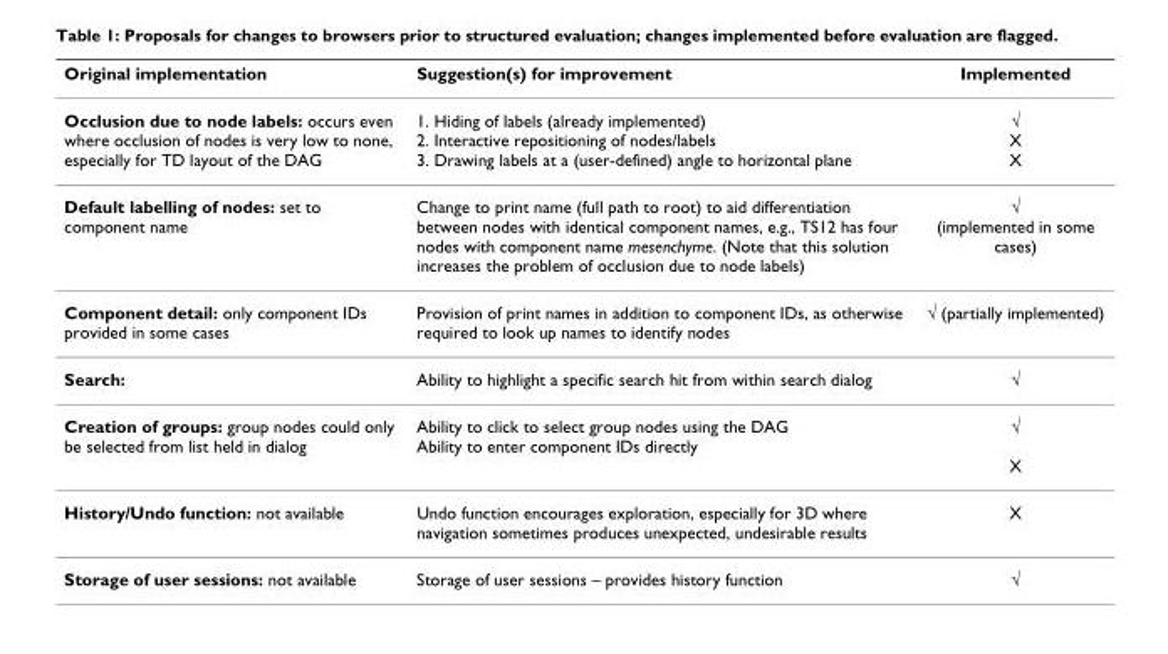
<table><thead><tr><td>Original implementation</td><td>Suggestion(s) for improvement</td><td>Implemented</td></tr></thead><tbody><tr><td>Occlusion due to node labels: occurs even where occlusion of nodes is very low to none, especially for TD layout of the DAG</td><td>1. Hiding of labels (already implemented) 2. Interactive repositioning of nodes/labels 3. Drawing labels at a (user-defined) angle to horizontal plane</td><td>√ X X</td></tr><tr><td>Default labelling of nodes: set to component name</td><td>Change to print name (full path to root) to aid differentiation between nodes with identical component names, e.g., TS12 has four nodes with component name mesenchyme. (Note that this solution increases the problem of occlusion due to node labels)</td><td>√ (implemented in some cases)</td></tr><tr><td>Component detail: only component IDs provided in some cases</td><td>Provision of print names in addition to component IDs, as otherwise required to look up names to identify nodes</td><td>√ (partially implemented)</td></tr><tr><td>Search:</td><td>Ability to highlight a specific search hit from within search dialog</td><td>√</td></tr><tr><td>Creation of groups: group nodes could only be selected from list held in dialog</td><td>Ability to click to select group nodes using the DAG Ability to enter component IDs directly</td><td>√ X</td></tr><tr><td>History/Undo function: not available</td><td>Undo function encourages exploration, especially for 3D where navigation sometimes produces unexpected, undesirable results</td><td>X</td></tr><tr><td>Storage of user sessions: not available</td><td>Storage of user sessions – provides history function</td><td>√</td></tr></tbody></table>